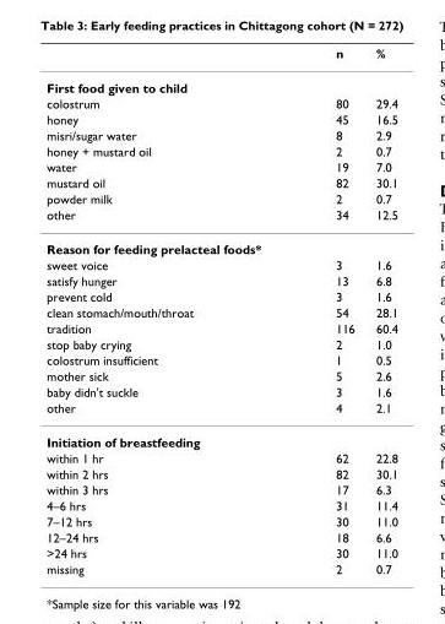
<table><thead><tr><td></td><td>n</td><td>%</td></tr></thead><tbody><tr><td colspan="3">First food given to child</td></tr><tr><td>colostrum</td><td>80</td><td>29.4</td></tr><tr><td>honey</td><td>45</td><td>16.5</td></tr><tr><td>misri/sugar water</td><td>8</td><td>2.9</td></tr><tr><td>honey + mustard oil</td><td>2</td><td>0.7</td></tr><tr><td>water</td><td>19</td><td>7.0</td></tr><tr><td>mustard oil</td><td>82</td><td>30.1</td></tr><tr><td>powder milk</td><td>2</td><td>0.7</td></tr><tr><td>other</td><td>34</td><td>12.5</td></tr><tr><td colspan="3">Reason for feeding prelacteal foods*</td></tr><tr><td>sweet voice</td><td>3</td><td>1.6</td></tr><tr><td>satisfy hunger</td><td>13</td><td>6.8</td></tr><tr><td>prevent cold</td><td>3</td><td>1.6</td></tr><tr><td>clean stomach/mouth/throat</td><td>54</td><td>28.1</td></tr><tr><td>tradition</td><td>116</td><td>60.4</td></tr><tr><td>stop baby crying</td><td>2</td><td>1.0</td></tr><tr><td>colostrum insufficient</td><td>1</td><td>0.5</td></tr><tr><td>mother sick</td><td>5</td><td>2.6</td></tr><tr><td>baby didn&#x27;t suckle</td><td>3</td><td>1.6</td></tr><tr><td>other</td><td>4</td><td>2.1</td></tr><tr><td colspan="3">Initiation of breastfeeding</td></tr><tr><td>within 1 hr</td><td>62</td><td>22.8</td></tr><tr><td>within 2 hrs</td><td>82</td><td>30.1</td></tr><tr><td>within 3 hrs</td><td>17</td><td>6.3</td></tr><tr><td>4–6 hrs</td><td>31</td><td>11.4</td></tr><tr><td>7–12 hrs</td><td>30</td><td>11.0</td></tr><tr><td>12–24 hrs</td><td>18</td><td>6.6</td></tr><tr><td>&gt;24 hrs</td><td>30</td><td>11.0</td></tr><tr><td>missing</td><td>2</td><td>0.7</td></tr></tbody></table>